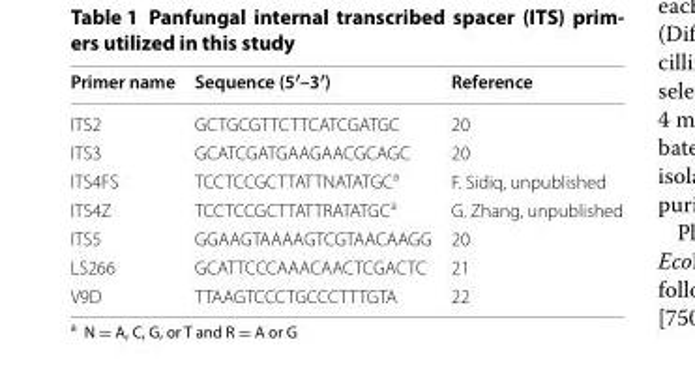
<table><thead><tr><td>Primer name</td><td>Sequence (5′–3′)</td><td>Reference</td></tr></thead><tbody><tr><td>ITS2</td><td>GCTGCGTTCTTCATCGATGC</td><td>20</td></tr><tr><td>ITS3</td><td>GCATCGATGAAGAACGCAGC</td><td>20</td></tr><tr><td>ITS4FS</td><td>TCCTCCGCTTATTNATATGC<sup>a</sup></td><td>F. Sidiq, unpublished</td></tr><tr><td>ITS4Z</td><td>TCCTCCGCTTATTRATATGC<sup>a</sup></td><td>G. Zhang, unpublished</td></tr><tr><td>ITS5</td><td>GGAAGTAAAAGTCGTAACAAGG</td><td>20</td></tr><tr><td>LS266</td><td>GCATTCCCAAACAACTCGACTC</td><td>21</td></tr><tr><td>V9D</td><td>TTAAGTCCCTGCCCTTTGTA</td><td>22</td></tr></tbody></table>